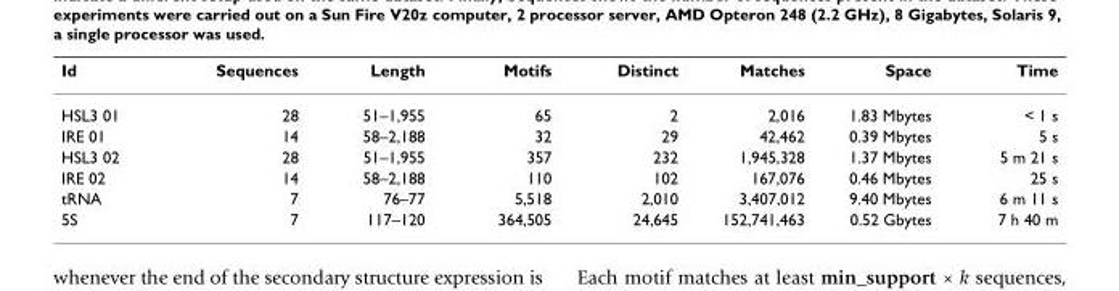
<table><thead><tr><td>Id</td><td>Sequences</td><td>Length</td><td>Motifs</td><td>Distinct</td><td>Matches</td><td>Space</td><td>Time</td></tr></thead><tbody><tr><td>HSL3 01</td><td>28</td><td>51–1,955</td><td>65</td><td>2</td><td>2,016</td><td>1.83 Mbytes</td><td>&lt; 1 s</td></tr><tr><td>IRE 01</td><td>14</td><td>58–2,188</td><td>32</td><td>29</td><td>42,462</td><td>0.39 Mbytes</td><td>5 s</td></tr><tr><td>HSL3 02</td><td>28</td><td>51–1,955</td><td>357</td><td>232</td><td>1,945,328</td><td>1.37 Mbytes</td><td>5 m 21 s</td></tr><tr><td>IRE 02</td><td>14</td><td>58–2,188</td><td>110</td><td>102</td><td>167,076</td><td>0.46 Mbytes</td><td>25 s</td></tr><tr><td>tRNA</td><td>7</td><td>76–77</td><td>5,518</td><td>2,010</td><td>3,407,012</td><td>9.40 Mbytes</td><td>6 m 11 s</td></tr><tr><td>5S</td><td>7</td><td>117–120</td><td>364,505</td><td>24,645</td><td>152,741,463</td><td>0.52 Gbytes</td><td>7 h 40 m</td></tr></tbody></table>